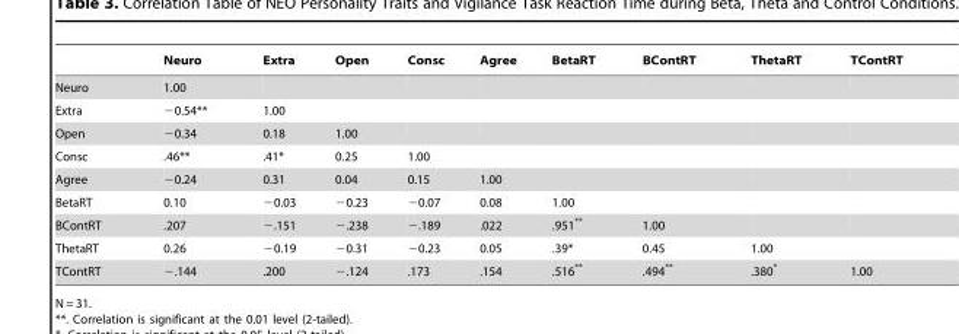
<table><thead><tr><td></td><td>Neuro</td><td>Extra</td><td>Open</td><td>Consc</td><td>Agree</td><td>BetaRT</td><td>BContRT</td><td>ThetaRT</td><td>TContRT</td></tr></thead><tbody><tr><td>Neuro</td><td>1.00</td><td></td><td></td><td></td><td></td><td></td><td></td><td></td><td></td></tr><tr><td>Extra</td><td>−0.54**</td><td>1.00</td><td></td><td></td><td></td><td></td><td></td><td></td><td></td></tr><tr><td>Open</td><td>−0.34</td><td>0.18</td><td>1.00</td><td></td><td></td><td></td><td></td><td></td><td></td></tr><tr><td>Consc</td><td>.46**</td><td>.41*</td><td>0.25</td><td>1.00</td><td></td><td></td><td></td><td></td><td></td></tr><tr><td>Agree</td><td>−0.24</td><td>0.31</td><td>0.04</td><td>0.15</td><td>1.00</td><td></td><td></td><td></td><td></td></tr><tr><td>BetaRT</td><td>0.10</td><td>−0.03</td><td>−0.23</td><td>−0.07</td><td>0.08</td><td>1.00</td><td></td><td></td><td></td></tr><tr><td>BContRT</td><td>.207</td><td>−.151</td><td>−.238</td><td>−.189</td><td>.022</td><td>.951**</td><td>1.00</td><td></td><td></td></tr><tr><td>ThetaRT</td><td>0.26</td><td>−0.19</td><td>−0.31</td><td>−0.23</td><td>0.05</td><td>.39*</td><td>0.45</td><td>1.00</td><td></td></tr><tr><td>TContRT</td><td>−.144</td><td>.200</td><td>−.124</td><td>.173</td><td>.154</td><td>.516**</td><td>.494**</td><td>.380*</td><td>1.00</td></tr></tbody></table>